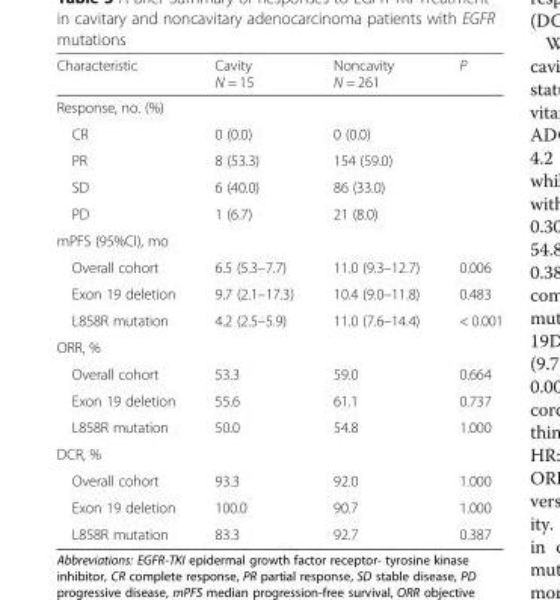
<table><thead><tr><td>Characteristic</td><td>Cavity N = 15</td><td>Noncavity N = 261</td><td>P</td></tr></thead><tbody><tr><td colspan="4">Response, no. (%)</td></tr><tr><td>CR</td><td>0 (0.0)</td><td>0 (0.0)</td><td></td></tr><tr><td>PR</td><td>8 (53.3)</td><td>154 (59.0)</td><td></td></tr><tr><td>SD</td><td>6 (40.0)</td><td>86 (33.0)</td><td></td></tr><tr><td>PD</td><td>1 (6.7)</td><td>21 (8.0)</td><td></td></tr><tr><td colspan="4">mPFS (95%CI), mo</td></tr><tr><td>Overall cohort</td><td>6.5 (5.3–7.7)</td><td>11.0 (9.3–12.7)</td><td>0.006</td></tr><tr><td>Exon 19 deletion</td><td>9.7 (2.1–17.3)</td><td>10.4 (9.0–11.8)</td><td>0.483</td></tr><tr><td>L858R mutation</td><td>4.2 (2.5–5.9)</td><td>11.0 (7.6–14.4)</td><td>&lt; 0.001</td></tr><tr><td colspan="4">ORR, %</td></tr><tr><td>Overall cohort</td><td>53.3</td><td>59.0</td><td>0.664</td></tr><tr><td>Exon 19 deletion</td><td>55.6</td><td>61.1</td><td>0.737</td></tr><tr><td>L858R mutation</td><td>50.0</td><td>54.8</td><td>1.000</td></tr><tr><td colspan="4">DCR, %</td></tr><tr><td>Overall cohort</td><td>93.3</td><td>92.0</td><td>1.000</td></tr><tr><td>Exon 19 deletion</td><td>100.0</td><td>90.7</td><td>1.000</td></tr><tr><td>L858R mutation</td><td>83.3</td><td>92.7</td><td>0.387</td></tr></tbody></table>